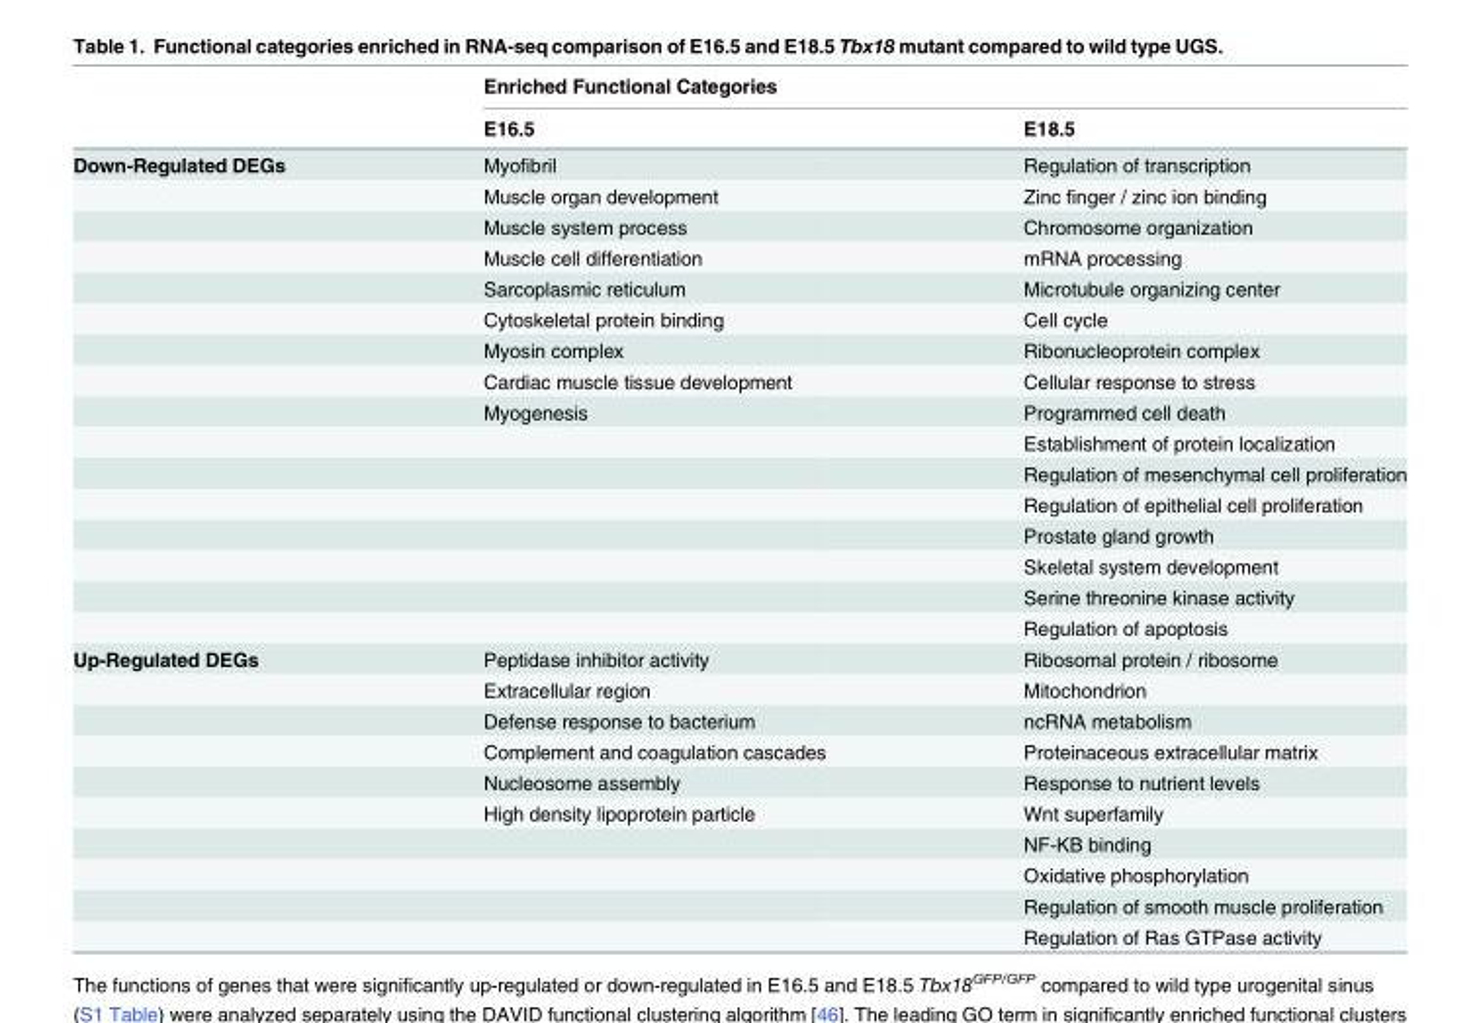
<table><thead><tr><td rowspan="2"></td><td colspan="2">Enriched Functional Categories</td></tr><tr><td>E16.5</td><td>E18.5</td></tr></thead><tbody><tr><td rowspan="16">Down-Regulated DEGs</td><td>Myofibril</td><td>Regulation of transcription</td></tr><tr><td>Muscle organ development</td><td>Zinc finger / zinc ion binding</td></tr><tr><td>Muscle system process</td><td>Chromosome organization</td></tr><tr><td>Muscle cell differentiation</td><td>mRNA processing</td></tr><tr><td>Sarcoplasmic reticulum</td><td>Microtubule organizing center</td></tr><tr><td>Cytoskeletal protein binding</td><td>Cell cycle</td></tr><tr><td>Myosin complex</td><td>Ribonucleoprotein complex</td></tr><tr><td>Cardiac muscle tissue development</td><td>Cellular response to stress</td></tr><tr><td>Myogenesis</td><td>Programmed cell death</td></tr><tr><td></td><td>Establishment of protein localization</td></tr><tr><td></td><td>Regulation of mesenchymal cell proliferation</td></tr><tr><td></td><td>Regulation of epithelial cell proliferation</td></tr><tr><td></td><td>Prostate gland growth</td></tr><tr><td></td><td>Skeletal system development</td></tr><tr><td></td><td>Serine threonine kinase activity</td></tr><tr><td></td><td>Regulation of apoptosis</td></tr><tr><td rowspan="10">Up-Regulated DEGs</td><td>Peptidase inhibitor activity</td><td>Ribosomal protein / ribosome</td></tr><tr><td>Extracellular region</td><td>Mitochondrion</td></tr><tr><td>Defense response to bacterium</td><td>ncRNA metabolism</td></tr><tr><td>Complement and coagulation cascades</td><td>Proteinaceous extracellular matrix</td></tr><tr><td>Nucleosome assembly</td><td>Response to nutrient levels</td></tr><tr><td>High density lipoprotein particle</td><td>Wnt superfamily</td></tr><tr><td></td><td>NF-KB binding</td></tr><tr><td></td><td>Oxidative phosphorylation</td></tr><tr><td></td><td>Regulation of smooth muscle proliferation</td></tr><tr><td></td><td>Regulation of Ras GTPase activity</td></tr></tbody></table>